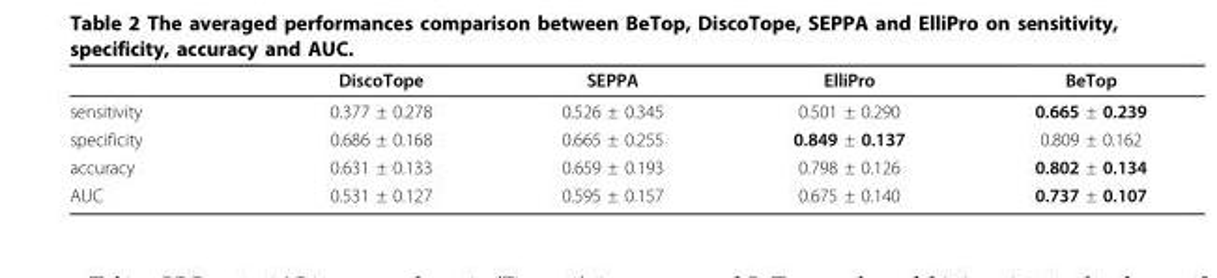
<table><thead><tr><td></td><td>DiscoTope</td><td>SEPPA</td><td>ElliPro</td><td>BeTop</td></tr></thead><tbody><tr><td>sensitivity</td><td>0.377 ± 0.278</td><td>0.526 ± 0.345</td><td>0.501 ± 0.290</td><td>0.665 ± 0.239</td></tr><tr><td>specificity</td><td>0.686 ± 0.168</td><td>0.665 ± 0.255</td><td>0.849 ± 0.137</td><td>0.809 ± 0.162</td></tr><tr><td>accuracy</td><td>0.631 ± 0.133</td><td>0.659 ± 0.193</td><td>0.798 ± 0.126</td><td>0.802 ± 0.134</td></tr><tr><td>AUC</td><td>0.531 ± 0.127</td><td>0.595 ± 0.157</td><td>0.675 ± 0.140</td><td>0.737 ± 0.107</td></tr></tbody></table>